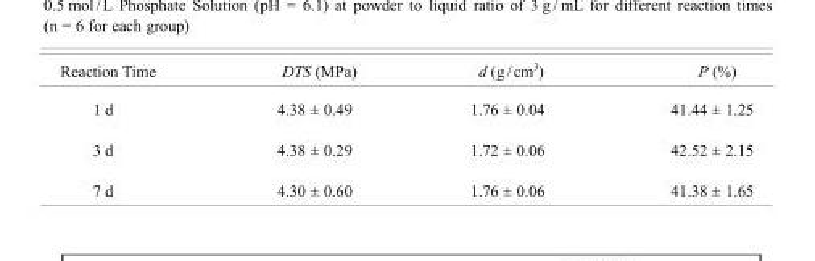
<table><thead><tr><td>Reaction Time</td><td>DTS (MPa)</td><td>d (g/cm<sup>3</sup>)</td><td>P (%)</td></tr></thead><tbody><tr><td>1 d</td><td>4.38 ± 0.49</td><td>1.76 ± 0.04</td><td>41.44 ± 1.25</td></tr><tr><td>3 d</td><td>4.38 ± 0.29</td><td>1.72 ± 0.06</td><td>42.52 ± 2.15</td></tr><tr><td>7 d</td><td>4.30 ± 0.60</td><td>1.76 ± 0.06</td><td>41.38 ± 1.65</td></tr></tbody></table>